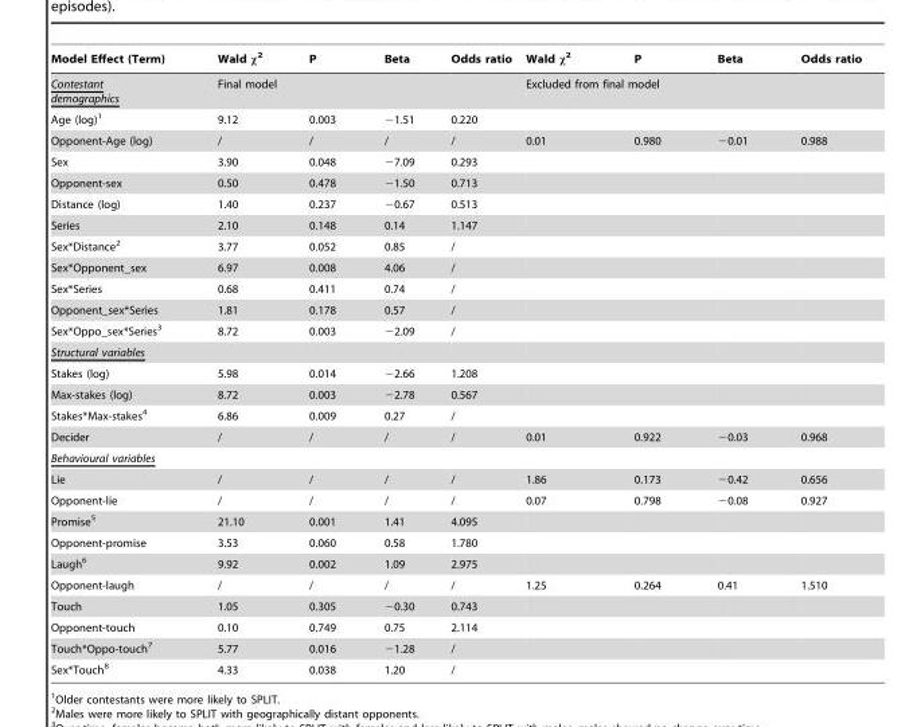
<table><thead><tr><td>Model Effect (Term)</td><td>Wald χ<sup>2</sup></td><td>P</td><td>Beta</td><td>Odds ratio</td><td>Wald χ<sup>2</sup></td><td>P</td><td>Beta</td><td>Odds ratio</td></tr></thead><tbody><tr><td>Contestant demographics</td><td colspan="4">Final model</td><td colspan="4">Excluded from final model</td></tr><tr><td>Age (log)<sup>1</sup></td><td>9.12</td><td>0.003</td><td>−1.51</td><td>0.220</td><td></td><td></td><td></td><td></td></tr><tr><td>Opponent-Age (log)</td><td>/</td><td>/</td><td>/</td><td>/</td><td>0.01</td><td>0.980</td><td>−0.01</td><td>0.988</td></tr><tr><td>Sex</td><td>3.90</td><td>0.048</td><td>−7.09</td><td>0.293</td><td></td><td></td><td></td><td></td></tr><tr><td>Opponent-sex</td><td>0.50</td><td>0.478</td><td>−1.50</td><td>0.713</td><td></td><td></td><td></td><td></td></tr><tr><td>Distance (log)</td><td>1.40</td><td>0.237</td><td>−0.67</td><td>0.513</td><td></td><td></td><td></td><td></td></tr><tr><td>Series</td><td>2.10</td><td>0.148</td><td>0.14</td><td>1.147</td><td></td><td></td><td></td><td></td></tr><tr><td>Sex*Distance<sup>2</sup></td><td>3.77</td><td>0.052</td><td>0.85</td><td>/</td><td></td><td></td><td></td><td></td></tr><tr><td>Sex*Opponent_sex</td><td>6.97</td><td>0.008</td><td>4.06</td><td>/</td><td></td><td></td><td></td><td></td></tr><tr><td>Sex*Series</td><td>0.68</td><td>0.411</td><td>0.74</td><td>/</td><td></td><td></td><td></td><td></td></tr><tr><td>Opponent_sex*Series</td><td>1.81</td><td>0.178</td><td>0.57</td><td>/</td><td></td><td></td><td></td><td></td></tr><tr><td>Sex*Oppo_sex*Series<sup>3</sup></td><td>8.72</td><td>0.003</td><td>−2.09</td><td>/</td><td></td><td></td><td></td><td></td></tr><tr><td colspan="9">Structural variables</td></tr><tr><td>Stakes (log)</td><td>5.98</td><td>0.014</td><td>−2.66</td><td>1.208</td><td></td><td></td><td></td><td></td></tr><tr><td>Max-stakes (log)</td><td>8.72</td><td>0.003</td><td>−2.78</td><td>0.567</td><td></td><td></td><td></td><td></td></tr><tr><td>Stakes*Max-stakes<sup>4</sup></td><td>6.86</td><td>0.009</td><td>0.27</td><td>/</td><td></td><td></td><td></td><td></td></tr><tr><td>Decider</td><td>/</td><td>/</td><td>/</td><td>/</td><td>0.01</td><td>0.922</td><td>−0.03</td><td>0.968</td></tr><tr><td colspan="9">Behavioural variables</td></tr><tr><td>Lie</td><td>/</td><td>/</td><td>/</td><td>/</td><td>1.86</td><td>0.173</td><td>−0.42</td><td>0.656</td></tr><tr><td>Opponent-lie</td><td>/</td><td>/</td><td>/</td><td>/</td><td>0.07</td><td>0.798</td><td>−0.08</td><td>0.927</td></tr><tr><td>Promise<sup>5</sup></td><td>21.10</td><td>0.001</td><td>1.41</td><td>4.095</td><td></td><td></td><td></td><td></td></tr><tr><td>Opponent-promise</td><td>3.53</td><td>0.060</td><td>0.58</td><td>1.780</td><td></td><td></td><td></td><td></td></tr><tr><td>Laugh<sup>6</sup></td><td>9.92</td><td>0.002</td><td>1.09</td><td>2.975</td><td></td><td></td><td></td><td></td></tr><tr><td>Opponent-laugh</td><td>/</td><td>/</td><td>/</td><td>/</td><td>1.25</td><td>0.264</td><td>0.41</td><td>1.510</td></tr><tr><td>Touch</td><td>1.05</td><td>0.305</td><td>−0.30</td><td>0.743</td><td></td><td></td><td></td><td></td></tr><tr><td>Opponent-touch</td><td>0.10</td><td>0.749</td><td>0.75</td><td>2.114</td><td></td><td></td><td></td><td></td></tr><tr><td>Touch*Oppo-touch<sup>7</sup></td><td>5.77</td><td>0.016</td><td>−1.28</td><td>/</td><td></td><td></td><td></td><td></td></tr><tr><td>Sex*Touch<sup>8</sup></td><td>4.33</td><td>0.038</td><td>1.20</td><td>/</td><td></td><td></td><td></td><td></td></tr></tbody></table>